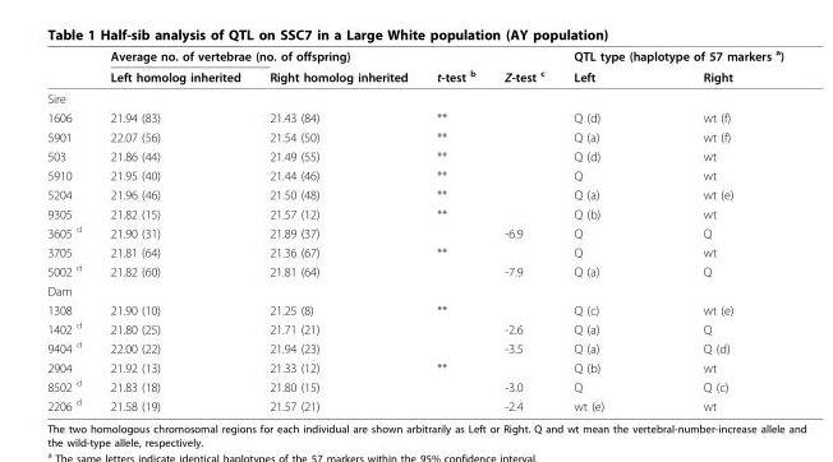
<table><thead><tr><td rowspan="2"></td><td colspan="2">Average no. of vertebrae (no. of offspring)</td><td rowspan="2">t-test <sup>b</sup></td><td rowspan="2">Z-test <sup>c</sup></td><td colspan="2">QTL type (haplotype of 57 markers <sup>a</sup>)</td></tr><tr><td>Left homolog inherited</td><td>Right homolog inherited</td><td>Left</td><td>Right</td></tr></thead><tbody><tr><td colspan="7">Sire</td></tr><tr><td>1606</td><td>21.94 (83)</td><td>21.43 (84)</td><td>**</td><td></td><td>Q (d)</td><td>wt (f)</td></tr><tr><td>5901</td><td>22.07 (56)</td><td>21.54 (50)</td><td>**</td><td></td><td>Q (a)</td><td>wt (f)</td></tr><tr><td>503</td><td>21.86 (44)</td><td>21.49 (55)</td><td>**</td><td></td><td>Q (d)</td><td>wt</td></tr><tr><td>5910</td><td>21.95 (40)</td><td>21.44 (46)</td><td>**</td><td></td><td>Q</td><td>wt</td></tr><tr><td>5204</td><td>21.96 (46)</td><td>21.50 (48)</td><td>**</td><td></td><td>Q (a)</td><td>wt (e)</td></tr><tr><td>9305</td><td>21.82 (15)</td><td>21.57 (12)</td><td>**</td><td></td><td>Q (b)</td><td>wt</td></tr><tr><td>3605 <sup>d</sup></td><td>21.90 (31)</td><td>21.89 (37)</td><td></td><td>-6.9</td><td>Q</td><td>Q</td></tr><tr><td>3705</td><td>21.81 (64)</td><td>21.36 (67)</td><td>**</td><td></td><td>Q</td><td>wt</td></tr><tr><td>5002 <sup>d</sup></td><td>21.82 (60)</td><td>21.81 (64)</td><td></td><td>-7.9</td><td>Q (a)</td><td>Q</td></tr><tr><td colspan="7">Dam</td></tr><tr><td>1308</td><td>21.90 (10)</td><td>21.25 (8)</td><td>**</td><td></td><td>Q (c)</td><td>wt (e)</td></tr><tr><td>1402 <sup>d</sup></td><td>21.80 (25)</td><td>21.71 (21)</td><td></td><td>-2.6</td><td>Q (a)</td><td>Q</td></tr><tr><td>9404 <sup>d</sup></td><td>22.00 (22)</td><td>21.94 (23)</td><td></td><td>-3.5</td><td>Q (a)</td><td>Q (d)</td></tr><tr><td>2904</td><td>21.92 (13)</td><td>21.33 (12)</td><td>**</td><td></td><td>Q (b)</td><td>wt</td></tr><tr><td>8502 <sup>d</sup></td><td>21.83 (18)</td><td>21.80 (15)</td><td></td><td>-3.0</td><td>Q</td><td>Q (c)</td></tr><tr><td>2206 <sup>d</sup></td><td>21.58 (19)</td><td>21.57 (21)</td><td></td><td>-2.4</td><td>wt (e)</td><td>wt</td></tr></tbody></table>